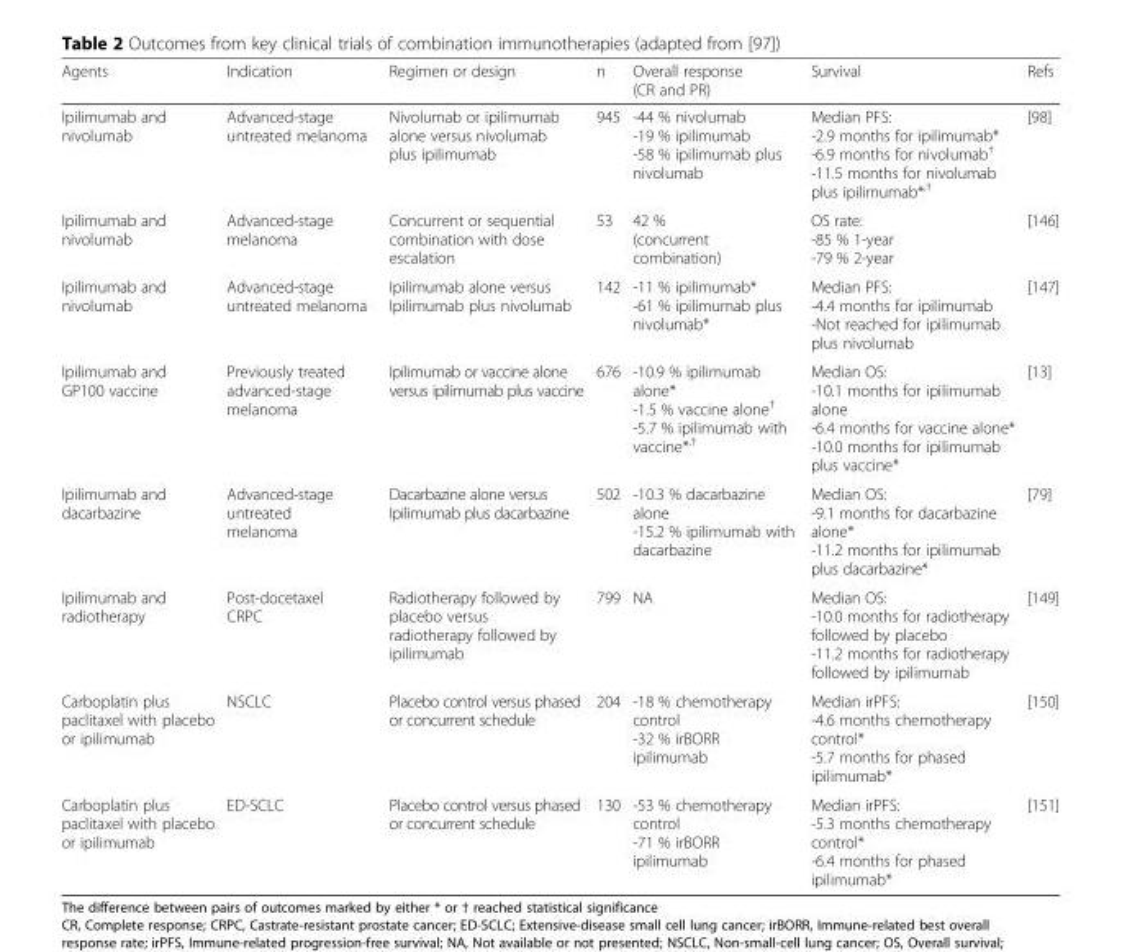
<table><thead><tr><td>Agents</td><td>Indication</td><td>Regimen or design</td><td>n</td><td>Overall response (CR and PR)</td><td>Survival</td><td>Refs</td></tr></thead><tbody><tr><td>Ipilimumab and nivolumab</td><td>Advanced-stage untreated melanoma</td><td>Nivolumab or ipilimumab alone versus nivolumab plus ipilimumab</td><td>945</td><td>-44 % nivolumab -19 % ipilimumab -58 % ipilimumab plus nivolumab</td><td>Median PFS: -2.9 months for ipilimumab* -6.9 months for nivolumab<sup>†</sup> -11.5 months for nivolumab plus ipilimumab*<sup>,†</sup></td><td>[98]</td></tr><tr><td>Ipilimumab and nivolumab</td><td>Advanced-stage melanoma</td><td>Concurrent or sequential combination with dose escalation</td><td>53</td><td>42 % (concurrent combination)</td><td>OS rate: -85 % 1-year -79 % 2-year</td><td>[146]</td></tr><tr><td>Ipilimumab and nivolumab</td><td>Advanced-stage untreated melanoma</td><td>Ipilimumab alone versus Ipilimumab plus nivolumab</td><td>142</td><td>-11 % ipilimumab* -61 % ipilimumab plus nivolumab*</td><td>Median PFS: -4.4 months for ipilimumab -Not reached for ipilimumab plus nivolumab</td><td>[147]</td></tr><tr><td>Ipilimumab and GP100 vaccine</td><td>Previously treated advanced-stage melanoma</td><td>Ipilimumab or vaccine alone versus ipilimumab plus vaccine</td><td>676</td><td>-10.9 % ipilimumab alone* -1.5 % vaccine alone<sup>†</sup> -5.7 % ipilimumab with vaccine*<sup>,†</sup></td><td>Median OS: -10.1 months for ipilimumab alone -6.4 months for vaccine alone* -10.0 months for ipilimumab plus vaccine*</td><td>[13]</td></tr><tr><td>Ipilimumab and dacarbazine</td><td>Advanced-stage untreated melanoma</td><td>Dacarbazine alone versus Ipilimumab plus dacarbazine</td><td>502</td><td>-10.3 % dacarbazine alone -15.2 % ipilimumab with dacarbazine</td><td>Median OS: -9.1 months for dacarbazine alone* -11.2 months for ipilimumab plus dacarbazine*</td><td>[79]</td></tr><tr><td>Ipilimumab and radiotherapy</td><td>Post-docetaxel CRPC</td><td>Radiotherapy followed by placebo versus radiotherapy followed by ipilimumab</td><td>799</td><td>NA</td><td>Median OS: -10.0 months for radiotherapy followed by placebo -11.2 months for radiotherapy followed by ipilimumab</td><td>[149]</td></tr><tr><td>Carboplatin plus paclitaxel with placebo or ipilimumab</td><td>NSCLC</td><td>Placebo control versus phased or concurrent schedule</td><td>204</td><td>-18 % chemotherapy control -32 % irBORR ipilimumab</td><td>Median irPFS: -4.6 months chemotherapy control* -5.7 months for phased ipilimumab*</td><td>[150]</td></tr><tr><td>Carboplatin plus paclitaxel with placebo or ipilimumab</td><td>ED-SCLC</td><td>Placebo control versus phased or concurrent schedule</td><td>130</td><td>-53 % chemotherapy control -71 % irBORR ipilimumab</td><td>Median irPFS: -5.3 months chemotherapy control* -6.4 months for phased ipilimumab*</td><td>[151]</td></tr></tbody></table>